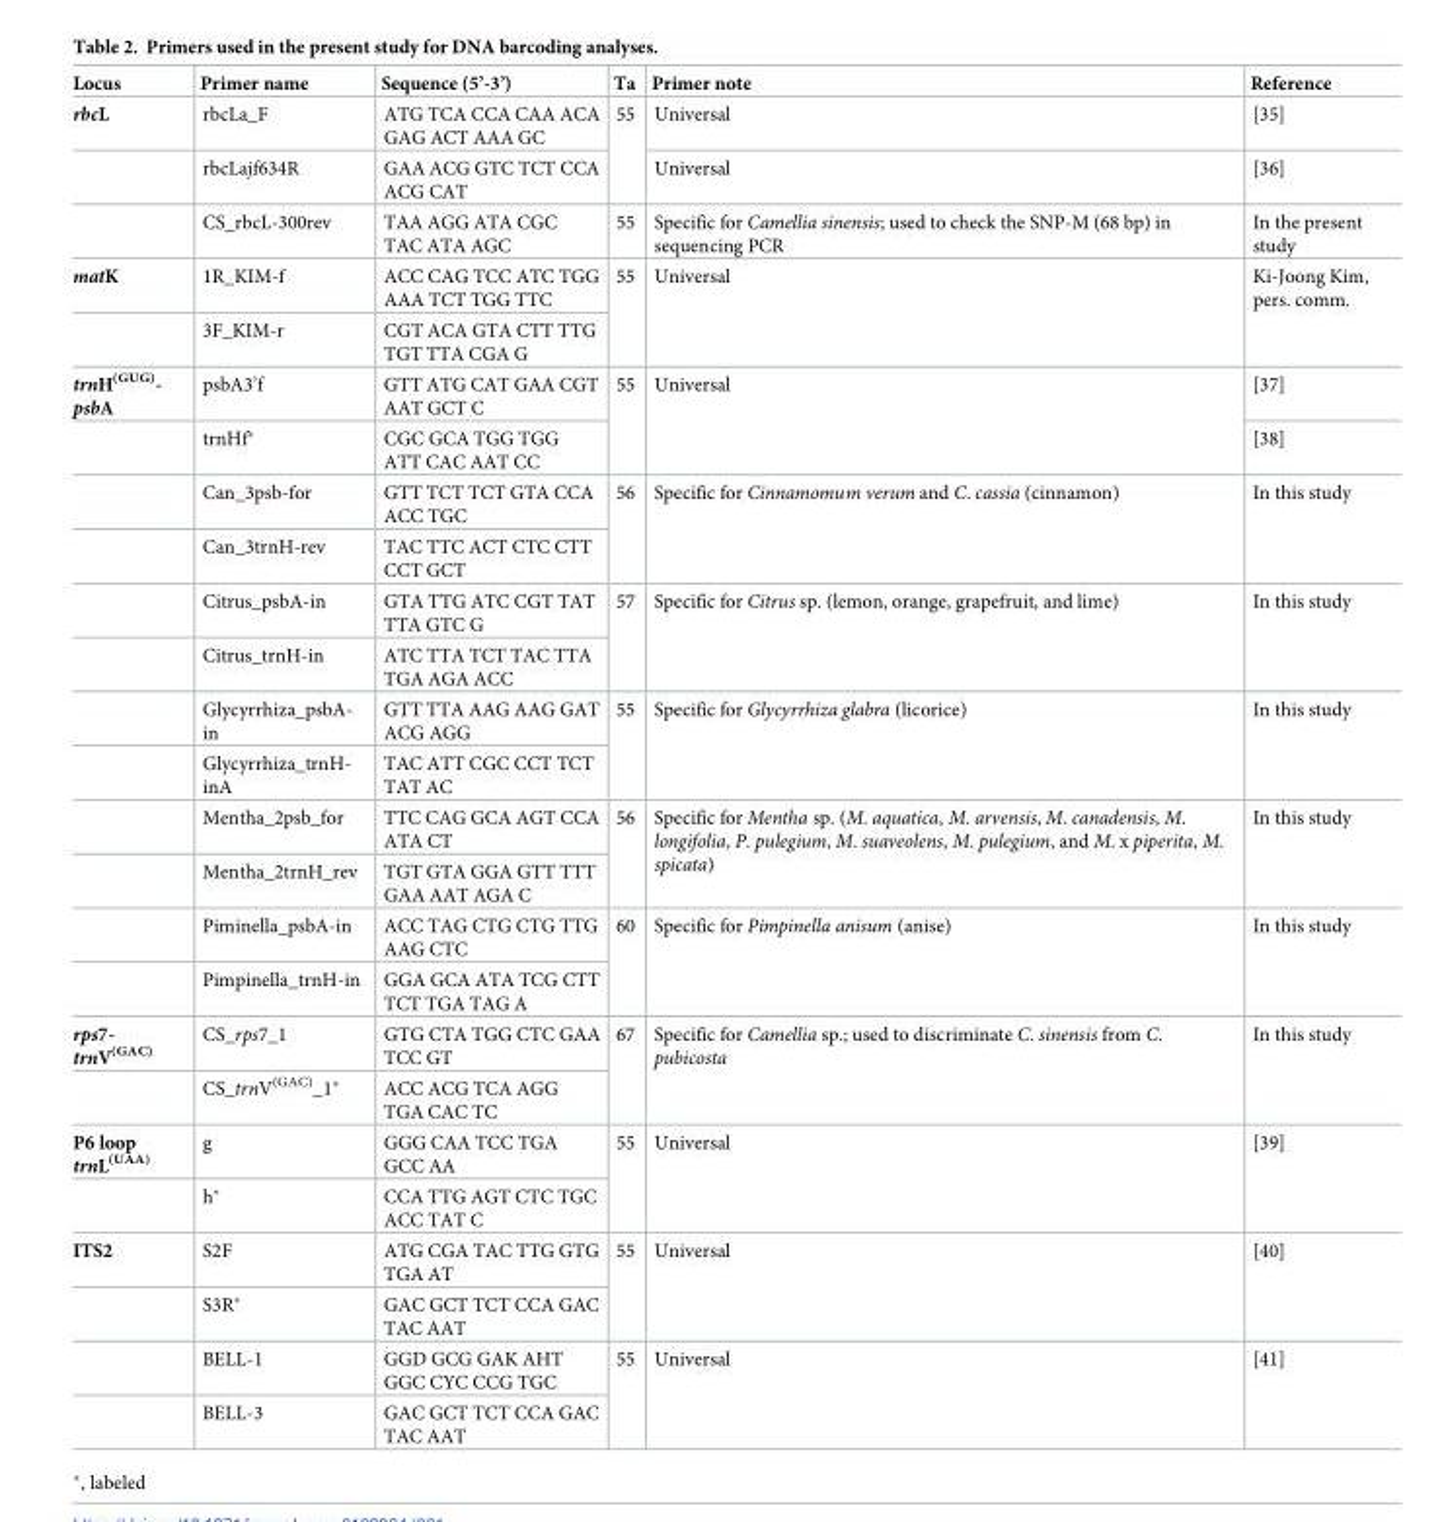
<table><thead><tr><td>Locus</td><td>Primer name</td><td>Sequence (5’-3’)</td><td>Ta</td><td>Primer note</td><td>Reference</td></tr></thead><tbody><tr><td rowspan="3">rbcL</td><td>rbcLa_F</td><td>ATG TCA CCA CAA ACA GAG ACT AAA GC</td><td rowspan="2">55</td><td>Universal</td><td>[35]</td></tr><tr><td>rbcLajf634R</td><td>GAA ACG GTC TCT CCA ACG CAT</td><td>Universal</td><td>[36]</td></tr><tr><td>CS_rbcL-300rev</td><td>TAA AGG ATA CGC TAC ATA AGC</td><td>55</td><td>Specific for Camellia sinensis; used to check the SNP-M (68 bp) in sequencing PCR</td><td>In the present study</td></tr><tr><td rowspan="2">matK</td><td>1R_KIM-f</td><td>ACC CAG TCC ATC TGG AAA TCT TGG TTC</td><td rowspan="2">55</td><td rowspan="2">Universal</td><td rowspan="2">Ki-Joong Kim, pers. comm.</td></tr><tr><td>3F_KIM-r</td><td>CGT ACA GTA CTT TTG TGT TTA CGA G</td></tr><tr><td rowspan="12">trnH<sup>(GUG)</sup>- psbA</td><td>psbA3’f</td><td>GTT ATG CAT GAA CGT AAT GCT C</td><td rowspan="2">55</td><td rowspan="2">Universal</td><td>[37]</td></tr><tr><td>trnHf*</td><td>CGC GCA TGG TGG ATT CAC AAT CC</td><td>[38]</td></tr><tr><td>Can_3psb-for</td><td>GTT TCT TCT GTA CCA ACC TGC</td><td rowspan="2">56</td><td rowspan="2">Specific for Cinnamomum verum and C. cassia (cinnamon)</td><td rowspan="2">In this study</td></tr><tr><td>Can_3trnH-rev</td><td>TAC TTC ACT CTC CTT CCT GCT</td></tr><tr><td>Citrus_psbA-in</td><td>GTA TTG ATC CGT TAT TTA GTC G</td><td rowspan="2">57</td><td rowspan="2">Specific for Citrus sp. (lemon, orange, grapefruit, and lime)</td><td rowspan="2">In this study</td></tr><tr><td>Citrus_trnH-in</td><td>ATC TTA TCT TAC TTA TGA AGA ACC</td></tr><tr><td>Glycyrrhiza_psbA- in</td><td>GTT TTA AAG AAG GAT ACG AGG</td><td rowspan="2">55</td><td rowspan="2">Specific for Glycyrrhiza glabra (licorice)</td><td rowspan="2">In this study</td></tr><tr><td>Glycyrrhiza_trnH- inA</td><td>TAC ATT CGC CCT TCT TAT AC</td></tr><tr><td>Mentha_2psb_for</td><td>TTC CAG GCA AGT CCA ATA CT</td><td rowspan="2">56</td><td rowspan="2">Specific for Mentha sp. (M. aquatica, M. arvensis, M. canadensis, M. longifolia, P. pulegium, M. suaveolens, M. pulegium, and M. x piperita, M. spicata)</td><td rowspan="2">In this study</td></tr><tr><td>Mentha_2trnH_rev</td><td>TGT GTA GGA GTT TTT GAA AAT AGA C</td></tr><tr><td>Piminella_psbA-in</td><td>ACC TAG CTG CTG TTG AAG CTC</td><td rowspan="2">60</td><td rowspan="2">Specific for Pimpinella anisum (anise)</td><td rowspan="2">In this study</td></tr><tr><td>Pimpinella_trnH-in</td><td>GGA GCA ATA TCG CTT TCT TGA TAG A</td></tr><tr><td rowspan="2">rps7- trnV<sup>(GAC)</sup></td><td>CS_rps7_1</td><td>GTG CTA TGG CTC GAA TCC GT</td><td rowspan="2">67</td><td rowspan="2">Specific for Camellia sp.; used to discriminate C. sinensis from C. pubicosta</td><td rowspan="2">In this study</td></tr><tr><td>CS_trnV<sup>(GAC)</sup>_1*</td><td>ACC ACG TCA AGG TGA CAC TC</td></tr><tr><td rowspan="2">P6 loop trnL<sup>(UAA)</sup></td><td>g</td><td>GGG CAA TCC TGA GCC AA</td><td rowspan="2">55</td><td rowspan="2">Universal</td><td rowspan="2">[39]</td></tr><tr><td>h*</td><td>CCA TTG AGT CTC TGC ACC TAT C</td></tr><tr><td rowspan="4">ITS2</td><td>S2F</td><td>ATG CGA TAC TTG GTG TGA AT</td><td rowspan="2">55</td><td rowspan="2">Universal</td><td rowspan="2">[40]</td></tr><tr><td>S3R*</td><td>GAC GCT TCT CCA GAC TAC AAT</td></tr><tr><td>BELL-1</td><td>GGD GCG GAK AHT GGC CYC CCG TGC</td><td rowspan="2">55</td><td rowspan="2">Universal</td><td rowspan="2">[41]</td></tr><tr><td>BELL-3</td><td>GAC GCT TCT CCA GAC TAC AAT</td></tr></tbody></table>